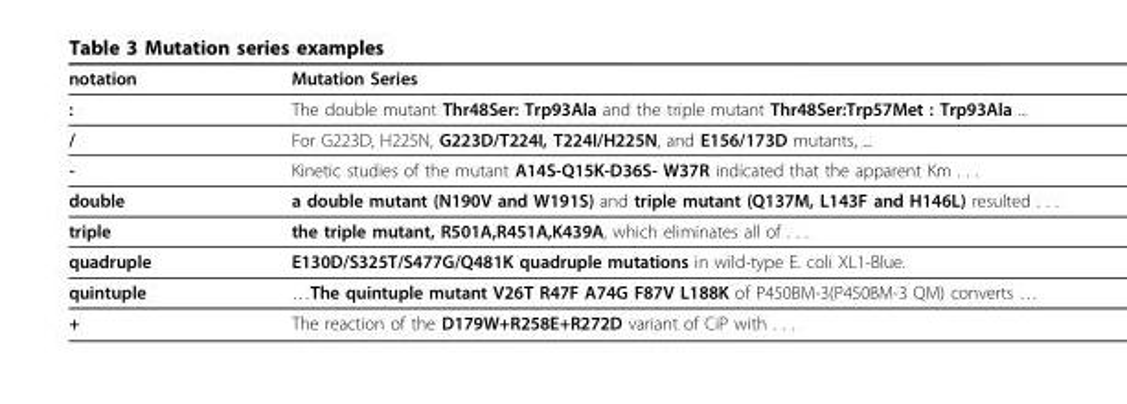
<table><thead><tr><td>notation</td><td>Mutation Series</td></tr></thead><tbody><tr><td>:</td><td>The double mutant Thr48Ser: Trp93Ala and the triple mutant Thr48Ser:Trp57Met : Trp93Ala ...</td></tr><tr><td>/</td><td>For G223D, H225N, G223D/T224I, T224I/H225N, and E156/173D mutants, ...</td></tr><tr><td>-</td><td>Kinetic studies of the mutant A14S-Q15K-D36S- W37R indicated that the apparent Km . . .</td></tr><tr><td>double</td><td>a double mutant (N190V and W191S) and triple mutant (Q137M, L143F and H146L) resulted . . .</td></tr><tr><td>triple</td><td>the triple mutant, R501A,R451A,K439A, which eliminates all of . . .</td></tr><tr><td>quadruple</td><td>E130D/S325T/S477G/Q481K quadruple mutations in wild-type E. coli XL1-Blue.</td></tr><tr><td>quintuple</td><td>…The quintuple mutant V26T R47F A74G F87V L188K of P450BM-3(P450BM-3 QM) converts …</td></tr><tr><td>+</td><td>The reaction of the D179W+R258E+R272D variant of CiP with . . .</td></tr></tbody></table>